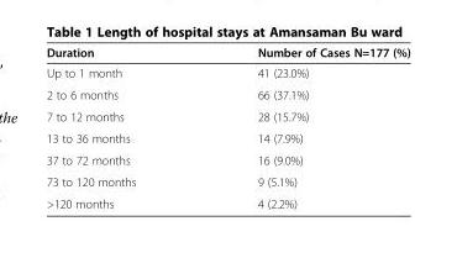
<table><thead><tr><td>Duration</td><td>Number of Cases N=177 (%)</td></tr></thead><tbody><tr><td>Up to 1 month</td><td>41 (23.0%)</td></tr><tr><td>2 to 6 months</td><td>66 (37.1%)</td></tr><tr><td>7 to 12 months</td><td>28 (15.7%)</td></tr><tr><td>13 to 36 months</td><td>14 (7.9%)</td></tr><tr><td>37 to 72 months</td><td>16 (9.0%)</td></tr><tr><td>73 to 120 months</td><td>9 (5.1%)</td></tr><tr><td>&gt;120 months</td><td>4 (2.2%)</td></tr></tbody></table>